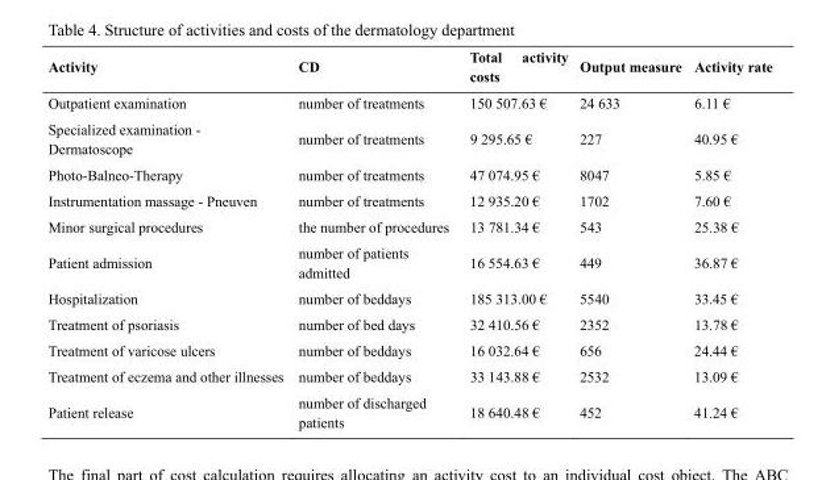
<table><thead><tr><td>Activity</td><td>CD</td><td>Total activity costs</td><td>Output measure</td><td>Activity rate</td></tr></thead><tbody><tr><td>Outpatient examination</td><td>number of treatments</td><td>150 507.63 €</td><td>24 633</td><td>6.11 €</td></tr><tr><td>Specialized examination - Dermatoscope</td><td>number of treatments</td><td>9 295.65 €</td><td>227</td><td>40.95 €</td></tr><tr><td>Photo-Balneo-Therapy</td><td>number of treatments</td><td>47 074.95 €</td><td>8047</td><td>5.85 €</td></tr><tr><td>Instrumentation massage - Pneuven</td><td>number of treatments</td><td>12 935.20 €</td><td>1702</td><td>7.60 €</td></tr><tr><td>Minor surgical procedures</td><td>the number of procedures</td><td>13 781.34 €</td><td>543</td><td>25.38 €</td></tr><tr><td>Patient admission</td><td>number of patients admitted</td><td>16 554.63 €</td><td>449</td><td>36.87 €</td></tr><tr><td>Hospitalization</td><td>number of beddays</td><td>185 313.00 €</td><td>5540</td><td>33.45 €</td></tr><tr><td>Treatment of psoriasis</td><td>number of bed days</td><td>32 410.56 €</td><td>2352</td><td>13.78 €</td></tr><tr><td>Treatment of varicose ulcers</td><td>number of beddays</td><td>16 032.64 €</td><td>656</td><td>24.44 €</td></tr><tr><td>Treatment of eczema and other illnesses</td><td>number of beddays</td><td>33 143.88 €</td><td>2532</td><td>13.09 €</td></tr><tr><td>Patient release</td><td>number of discharged patients</td><td>18 640.48 €</td><td>452</td><td>41.24 €</td></tr></tbody></table>